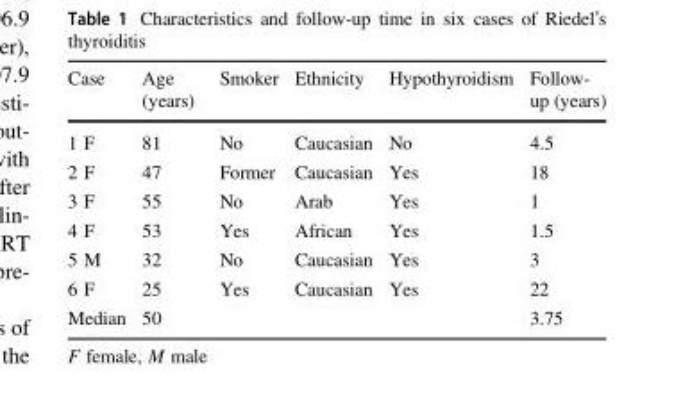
<table><thead><tr><td>Case</td><td>Age (years)</td><td>Smoker</td><td>Ethnicity</td><td>Hypothyroidism</td><td>Follow- up (years)</td></tr></thead><tbody><tr><td>1 F</td><td>81</td><td>No</td><td>Caucasian</td><td>No</td><td>4.5</td></tr><tr><td>2 F</td><td>47</td><td>Former</td><td>Caucasian</td><td>Yes</td><td>18</td></tr><tr><td>3 F</td><td>55</td><td>No</td><td>Arab</td><td>Yes</td><td>1</td></tr><tr><td>4 F</td><td>53</td><td>Yes</td><td>African</td><td>Yes</td><td>1.5</td></tr><tr><td>5 M</td><td>32</td><td>No</td><td>Caucasian</td><td>Yes</td><td>3</td></tr><tr><td>6 F</td><td>25</td><td>Yes</td><td>Caucasian</td><td>Yes</td><td>22</td></tr><tr><td>Median</td><td>50</td><td></td><td></td><td></td><td>3.75</td></tr></tbody></table>